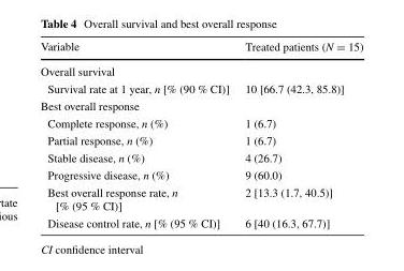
<table><thead><tr><td>Variable</td><td>Treated patients (N = 15)</td></tr></thead><tbody><tr><td colspan="2">Overall survival</td></tr><tr><td>Survival rate at 1 year, n [% (90 % CI)]</td><td>10 [66.7 (42.3, 85.8)]</td></tr><tr><td colspan="2">Best overall response</td></tr><tr><td>Complete response, n (%)</td><td>1 (6.7)</td></tr><tr><td>Partial response, n (%)</td><td>1 (6.7)</td></tr><tr><td>Stable disease, n (%)</td><td>4 (26.7)</td></tr><tr><td>Progressive disease, n (%)</td><td>9 (60.0)</td></tr><tr><td>Best overall response rate, n [% (95 % CI)]</td><td>2 [13.3 (1.7, 40.5)]</td></tr><tr><td>Disease control rate, n [% (95 % CI)]</td><td>6 [40 (16.3, 67.7)]</td></tr></tbody></table>